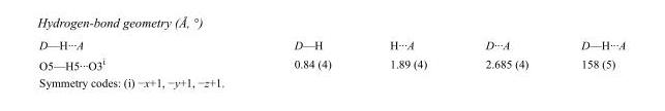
<table><tbody><tr><td>D—H···A</td><td>D—H</td><td>H···A</td><td>D···A</td><td>D—H···A</td></tr><tr><td>O5—H5···O3<sup>i</sup></td><td>0.84 (4)</td><td>1.89 (4)</td><td>2.685 (4)</td><td>158 (5)</td></tr></tbody></table>